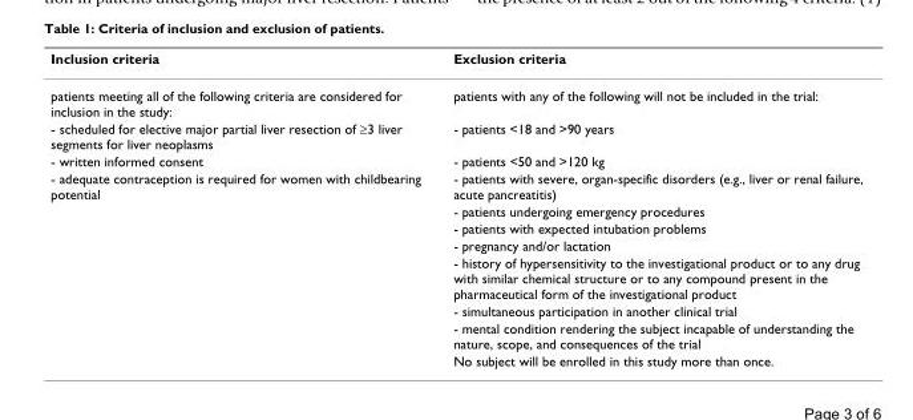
<table><thead><tr><td>Inclusion criteria</td><td>Exclusion criteria</td></tr></thead><tbody><tr><td>patients meeting all of the following criteria are considered for inclusion in the study:</td><td>patients with any of the following will not be included in the trial:</td></tr><tr><td>- scheduled for elective major partial liver resection of ≥3 liver segments for liver neoplasms</td><td>- patients &lt;18 and &gt;90 years</td></tr><tr><td>- written informed consent</td><td>- patients &lt;50 and &gt;120 kg</td></tr><tr><td rowspan="8">- adequate contraception is required for women with childbearing potential</td><td>- patients with severe, organ-specific disorders (e.g., liver or renal failure, acute pancreatitis)</td></tr><tr><td>- patients undergoing emergency procedures</td></tr><tr><td>- patients with expected intubation problems</td></tr><tr><td>- pregnancy and/or lactation</td></tr><tr><td>- history of hypersensitivity to the investigational product or to any drug with similar chemical structure or to any compound present in the pharmaceutical form of the investigational product</td></tr><tr><td>- simultaneous participation in another clinical trial</td></tr><tr><td>- mental condition rendering the subject incapable of understanding the nature, scope, and consequences of the trial</td></tr><tr><td>No subject will be enrolled in this study more than once.</td></tr></tbody></table>